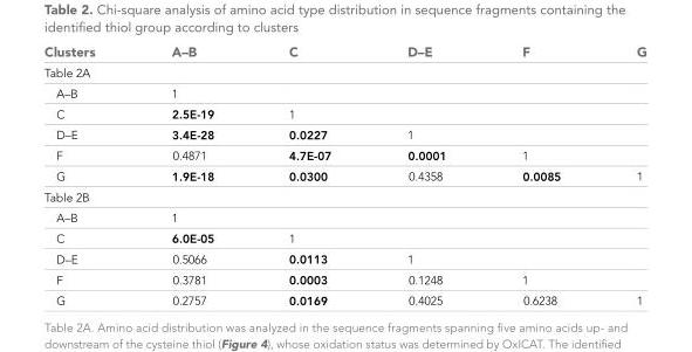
<table><thead><tr><td>Clusters</td><td>A–B</td><td>C</td><td>D–E</td><td>F</td><td>G</td></tr></thead><tbody><tr><td colspan="6">Table 2A</td></tr><tr><td>A–B</td><td>1</td><td></td><td></td><td></td><td></td></tr><tr><td>C</td><td>2.5E-19</td><td>1</td><td></td><td></td><td></td></tr><tr><td>D–E</td><td>3.4E-28</td><td>0.0227</td><td>1</td><td></td><td></td></tr><tr><td>F</td><td>0.4871</td><td>4.7E-07</td><td>0.0001</td><td>1</td><td></td></tr><tr><td>G</td><td>1.9E-18</td><td>0.0300</td><td>0.4358</td><td>0.0085</td><td>1</td></tr><tr><td colspan="6">Table 2B</td></tr><tr><td>A–B</td><td>1</td><td></td><td></td><td></td><td></td></tr><tr><td>C</td><td>6.0E-05</td><td>1</td><td></td><td></td><td></td></tr><tr><td>D–E</td><td>0.5066</td><td>0.0113</td><td>1</td><td></td><td></td></tr><tr><td>F</td><td>0.3781</td><td>0.0003</td><td>0.1248</td><td>1</td><td></td></tr><tr><td>G</td><td>0.2757</td><td>0.0169</td><td>0.4025</td><td>0.6238</td><td>1</td></tr></tbody></table>